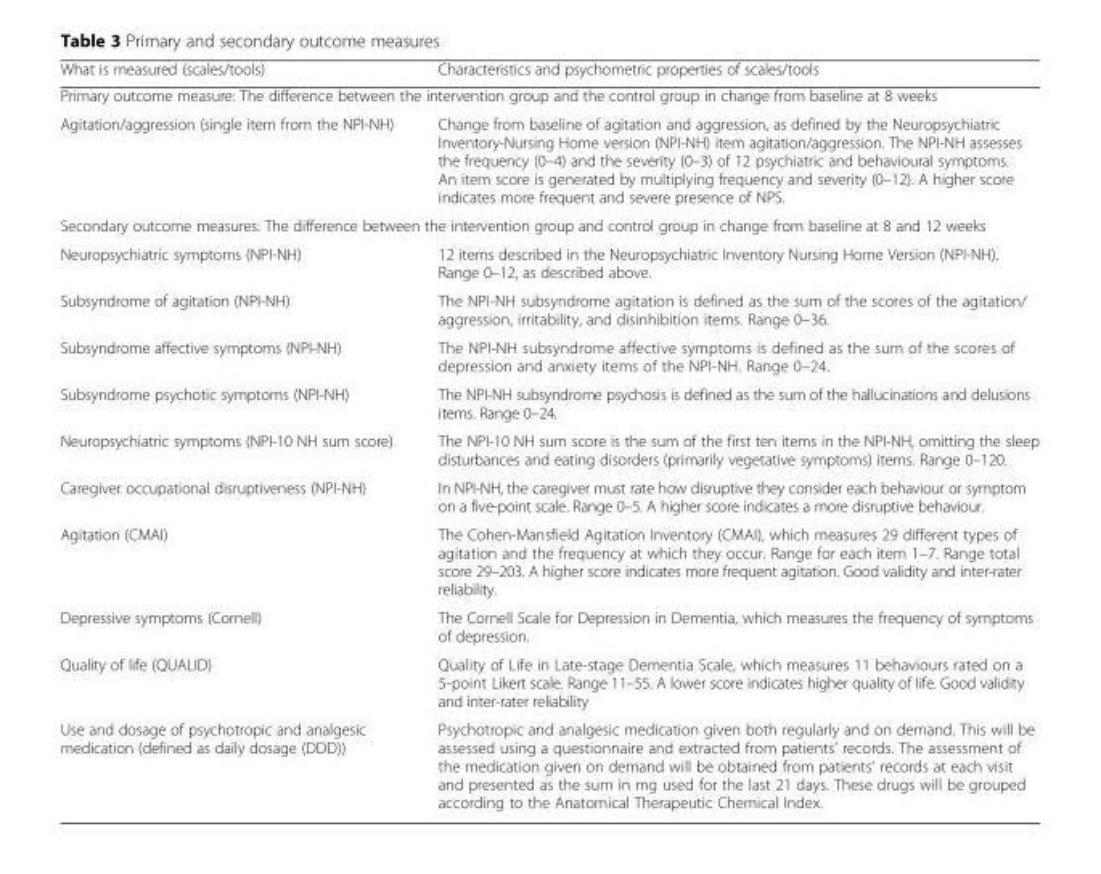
<table><thead><tr><td>What is measured (scales/tools)</td><td>Characteristics and psychometric properties of scales/tools</td></tr></thead><tbody><tr><td colspan="2">Primary outcome measure: The difference between the intervention group and the control group in change from baseline at 8 weeks</td></tr><tr><td>Agitation/aggression (single item from the NPI-NH)</td><td>Change from baseline of agitation and aggression, as defined by the Neuropsychiatric Inventory-Nursing Home version (NPI-NH) item agitation/aggression. The NPI-NH assesses the frequency (0–4) and the severity (0–3) of 12 psychiatric and behavioural symptoms. An item score is generated by multiplying frequency and severity (0–12). A higher score indicates more frequent and severe presence of NPS.</td></tr><tr><td colspan="2">Secondary outcome measures: The difference between the intervention group and control group in change from baseline at 8 and 12 weeks</td></tr><tr><td>Neuropsychiatric symptoms (NPI-NH)</td><td>12 items described in the Neuropsychiatric Inventory Nursing Home Version (NPI-NH). Range 0–12, as described above.</td></tr><tr><td>Subsyndrome of agitation (NPI-NH)</td><td>The NPI-NH subsyndrome agitation is defined as the sum of the scores of the agitation/ aggression, irritability, and disinhibition items. Range 0–36.</td></tr><tr><td>Subsyndrome affective symptoms (NPI-NH)</td><td>The NPI-NH subsyndrome affective symptoms is defined as the sum of the scores of depression and anxiety items of the NPI-NH. Range 0–24.</td></tr><tr><td>Subsyndrome psychotic symptoms (NPI-NH)</td><td>The NPI-NH subsyndrome psychosis is defined as the sum of the hallucinations and delusions items. Range 0–24.</td></tr><tr><td>Neuropsychiatric symptoms (NPI-10 NH sum score)</td><td>The NPI-10 NH sum score is the sum of the first ten items in the NPI-NH, omitting the sleep disturbances and eating disorders (primarily vegetative symptoms) items. Range 0–120.</td></tr><tr><td>Caregiver occupational disruptiveness (NPI-NH)</td><td>In NPI-NH, the caregiver must rate how disruptive they consider each behaviour or symptom on a five-point scale. Range 0–5. A higher score indicates a more disruptive behaviour.</td></tr><tr><td>Agitation (CMAI)</td><td>The Cohen-Mansfield Agitation Inventory (CMAI), which measures 29 different types of agitation and the frequency at which they occur. Range for each item 1–7. Range total score 29–203. A higher score indicates more frequent agitation. Good validity and inter-rater reliability.</td></tr><tr><td>Depressive symptoms (Cornell)</td><td>The Cornell Scale for Depression in Dementia, which measures the frequency of symptoms of depression.</td></tr><tr><td>Quality of life (QUALID)</td><td>Quality of Life in Late-stage Dementia Scale, which measures 11 behaviours rated on a 5-point Likert scale. Range 11–55. A lower score indicates higher quality of life. Good validity and inter-rater reliability</td></tr><tr><td>Use and dosage of psychotropic and analgesic medication (defined as daily dosage (DDD))</td><td>Psychotropic and analgesic medication given both regularly and on demand. This will be assessed using a questionnaire and extracted from patients’ records. The assessment of the medication given on demand will be obtained from patients’ records at each visit and presented as the sum in mg used for the last 21 days. These drugs will be grouped according to the Anatomical Therapeutic Chemical Index.</td></tr></tbody></table>